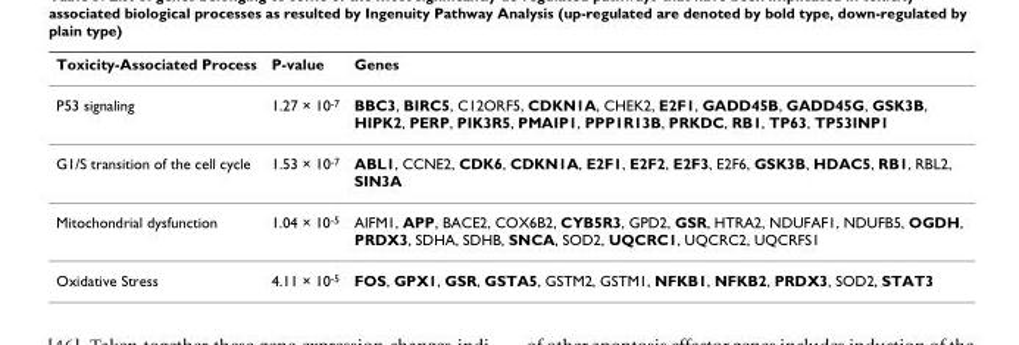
<table><thead><tr><td>Toxicity-Associated Process</td><td>P-value</td><td>Genes</td></tr></thead><tbody><tr><td>P53 signaling</td><td>1.27 × 10<sup>-7</sup></td><td>BBC3, BIRC5, C12ORF5, CDKN1A, CHEK2, E2F1, GADD45B, GADD45G, GSK3B, HIPK2, PERP, PIK3R5, PMAIP1, PPP1R13B, PRKDC, RB1, TP63, TP53INP1</td></tr><tr><td>G1/S transition of the cell cycle</td><td>1.53 × 10<sup>-7</sup></td><td>ABL1, CCNE2, CDK6, CDKN1A, E2F1, E2F2, E2F3, E2F6, GSK3B, HDAC5, RB1, RBL2, SIN3A</td></tr><tr><td>Mitochondrial dysfunction</td><td>1.04 × 10<sup>-5</sup></td><td>AIFM1, APP, BACE2, COX6B2, CYB5R3, GPD2, GSR, HTRA2, NDUFAF1, NDUFB5, OGDH, PRDX3, SDHA, SDHB, SNCA, SOD2, UQCRC1, UQCRC2, UQCRFS1</td></tr><tr><td>Oxidative Stress</td><td>4.11 × 10<sup>-5</sup></td><td>FOS, GPX1, GSR, GSTA5, GSTM2, GSTM1, NFKB1, NFKB2, PRDX3, SOD2, STAT3</td></tr></tbody></table>